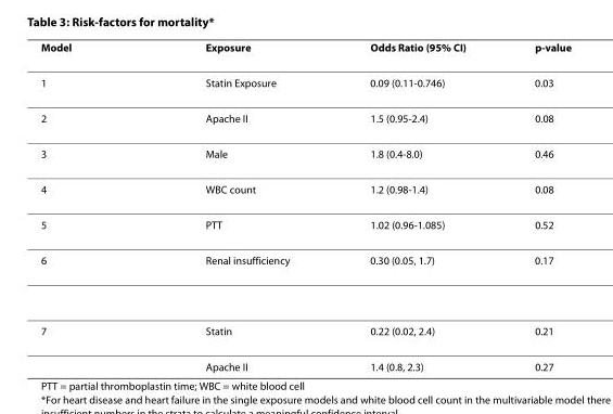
<table><thead><tr><td>Model</td><td>Exposure</td><td>Odds Ratio (95% CI)</td><td>p-value</td></tr></thead><tbody><tr><td>1</td><td>Statin Exposure</td><td>0.09 (0.11-0.746)</td><td>0.03</td></tr><tr><td>2</td><td>Apache II</td><td>1.5 (0.95-2.4)</td><td>0.08</td></tr><tr><td>3</td><td>Male</td><td>1.8 (0.4-8.0)</td><td>0.46</td></tr><tr><td>4</td><td>WBC count</td><td>1.2 (0.98-1.4)</td><td>0.08</td></tr><tr><td>5</td><td>PTT</td><td>1.02 (0.96-1.085)</td><td>0.52</td></tr><tr><td>6</td><td>Renal insufficiency</td><td>0.30 (0.05, 1.7)</td><td>0.17</td></tr><tr><td rowspan="2">7</td><td>Statin</td><td>0.22 (0.02, 2.4)</td><td>0.21</td></tr><tr><td>Apache II</td><td>1.4 (0.8, 2.3)</td><td>0.27</td></tr></tbody></table>